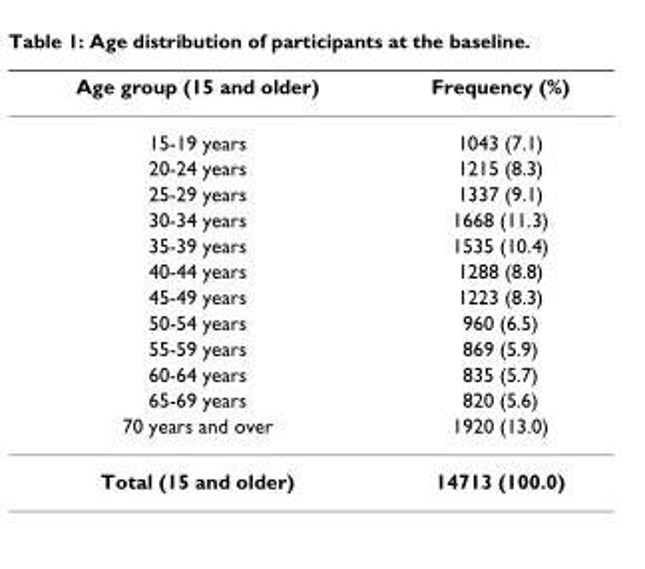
<table><thead><tr><td>Age group (15 and older)</td><td>Frequency (%)</td></tr></thead><tbody><tr><td>15-19 years</td><td>1043 (7.1)</td></tr><tr><td>20-24 years</td><td>1215 (8.3)</td></tr><tr><td>25-29 years</td><td>1337 (9.1)</td></tr><tr><td>30-34 years</td><td>1668 (11.3)</td></tr><tr><td>35-39 years</td><td>1535 (10.4)</td></tr><tr><td>40-44 years</td><td>1288 (8.8)</td></tr><tr><td>45-49 years</td><td>1223 (8.3)</td></tr><tr><td>50-54 years</td><td>960 (6.5)</td></tr><tr><td>55-59 years</td><td>869 (5.9)</td></tr><tr><td>60-64 years</td><td>835 (5.7)</td></tr><tr><td>65-69 years</td><td>820 (5.6)</td></tr><tr><td>70 years and over</td><td>1920 (13.0)</td></tr><tr><td>Total (15 and older)</td><td>14713 (100.0)</td></tr></tbody></table>